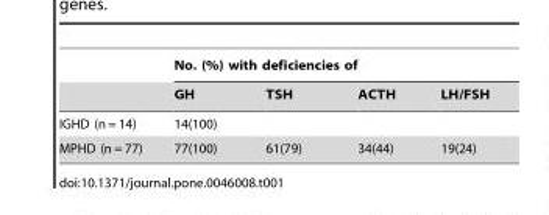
<table><thead><tr><td rowspan="2"></td><td colspan="4">No. (%) with deficiencies of</td></tr><tr><td>GH</td><td>TSH</td><td>ACTH</td><td>LH/FSH</td></tr></thead><tbody><tr><td>IGHD (n = 14)</td><td>14(100)</td><td colspan="3"></td></tr><tr><td>MPHD (n = 77)</td><td>77(100)</td><td>61(79)</td><td>34(44)</td><td>19(24)</td></tr></tbody></table>